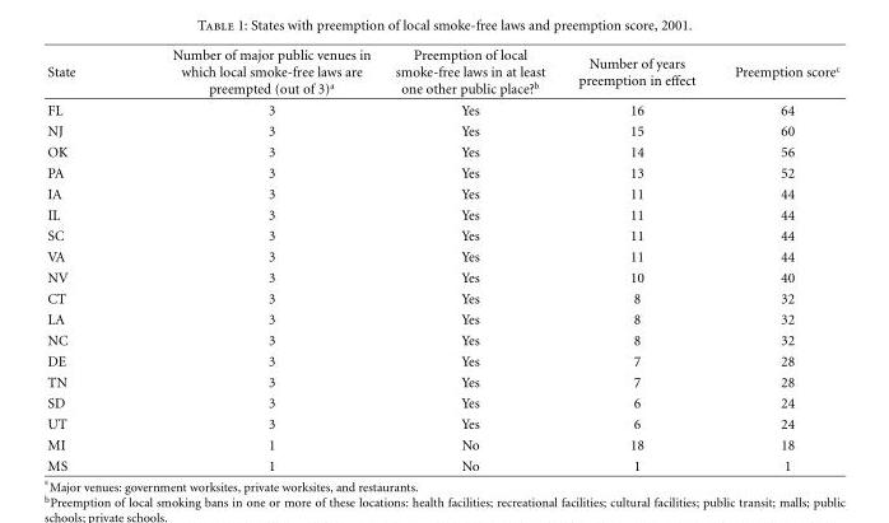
<table><thead><tr><td>State</td><td>Number of major public venues in which local smoke-free laws are preempted (out of 3)<sup>a</sup></td><td>Preemption of local smoke-free laws in at least one other public place?<sup>b</sup></td><td>Number of years preemption in effect</td><td>Preemption score<sup>c</sup></td></tr></thead><tbody><tr><td>FL</td><td>3</td><td>Yes</td><td>16</td><td>64</td></tr><tr><td>NJ</td><td>3</td><td>Yes</td><td>15</td><td>60</td></tr><tr><td>OK</td><td>3</td><td>Yes</td><td>14</td><td>56</td></tr><tr><td>PA</td><td>3</td><td>Yes</td><td>13</td><td>52</td></tr><tr><td>IA</td><td>3</td><td>Yes</td><td>11</td><td>44</td></tr><tr><td>IL</td><td>3</td><td>Yes</td><td>11</td><td>44</td></tr><tr><td>SC</td><td>3</td><td>Yes</td><td>11</td><td>44</td></tr><tr><td>VA</td><td>3</td><td>Yes</td><td>11</td><td>44</td></tr><tr><td>NV</td><td>3</td><td>Yes</td><td>10</td><td>40</td></tr><tr><td>CT</td><td>3</td><td>Yes</td><td>8</td><td>32</td></tr><tr><td>LA</td><td>3</td><td>Yes</td><td>8</td><td>32</td></tr><tr><td>NC</td><td>3</td><td>Yes</td><td>8</td><td>32</td></tr><tr><td>DE</td><td>3</td><td>Yes</td><td>7</td><td>28</td></tr><tr><td>TN</td><td>3</td><td>Yes</td><td>7</td><td>28</td></tr><tr><td>SD</td><td>3</td><td>Yes</td><td>6</td><td>24</td></tr><tr><td>UT</td><td>3</td><td>Yes</td><td>6</td><td>24</td></tr><tr><td>MI</td><td>1</td><td>No</td><td>18</td><td>18</td></tr><tr><td>MS</td><td>1</td><td>No</td><td>1</td><td>1</td></tr></tbody></table>